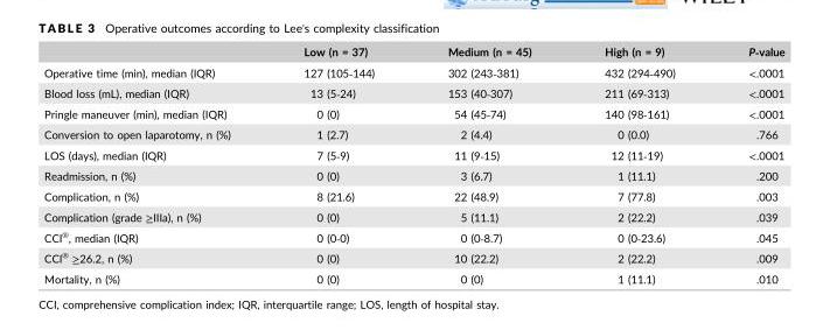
<table><thead><tr><td></td><td>Low (n = 37)</td><td>Medium (n = 45)</td><td>High (n = 9)</td><td>P‐value</td></tr></thead><tbody><tr><td>Operative time (min), median (IQR)</td><td>127 (105‐144)</td><td>302 (243‐381)</td><td>432 (294‐490)</td><td>&lt;.0001</td></tr><tr><td>Blood loss (mL), median (IQR)</td><td>13 (5‐24)</td><td>153 (40‐307)</td><td>211 (69‐313)</td><td>&lt;.0001</td></tr><tr><td>Pringle maneuver (min), median (IQR)</td><td>0 (0)</td><td>54 (45‐74)</td><td>140 (98‐161)</td><td>&lt;.0001</td></tr><tr><td>Conversion to open laparotomy, n (%)</td><td>1 (2.7)</td><td>2 (4.4)</td><td>0 (0.0)</td><td>.766</td></tr><tr><td>LOS (days), median (IQR)</td><td>7 (5‐9)</td><td>11 (9‐15)</td><td>12 (11‐19)</td><td>&lt;.0001</td></tr><tr><td>Readmission, n (%)</td><td>0 (0)</td><td>3 (6.7)</td><td>1 (11.1)</td><td>.200</td></tr><tr><td>Complication, n (%)</td><td>8 (21.6)</td><td>22 (48.9)</td><td>7 (77.8)</td><td>.003</td></tr><tr><td>Complication (grade ≥IIIa), n (%)</td><td>0 (0)</td><td>5 (11.1)</td><td>2 (22.2)</td><td>.039</td></tr><tr><td>CCI<sup>®</sup>, median (IQR)</td><td>0 (0‐0)</td><td>0 (0‐8.7)</td><td>0 (0‐23.6)</td><td>.045</td></tr><tr><td>CCI<sup>®</sup> ≥26.2, n (%)</td><td>0 (0)</td><td>10 (22.2)</td><td>2 (22.2)</td><td>.009</td></tr><tr><td>Mortality, n (%)</td><td>0 (0)</td><td>0 (0)</td><td>1 (11.1)</td><td>.010</td></tr></tbody></table>